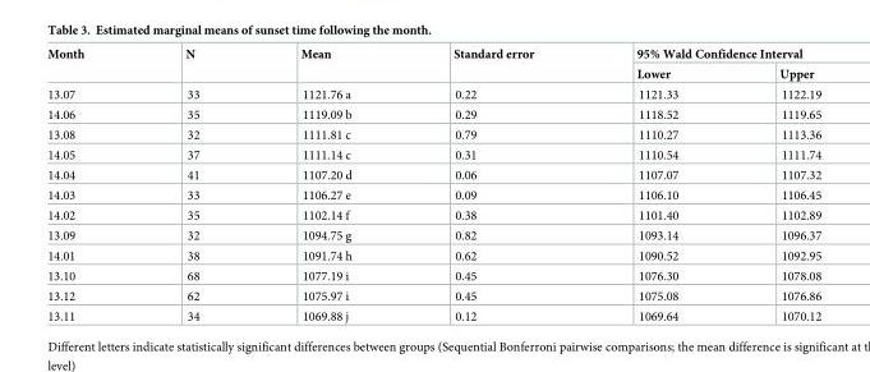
<table><thead><tr><td rowspan="2">Month</td><td rowspan="2">N</td><td rowspan="2">Mean</td><td rowspan="2">Standard error</td><td colspan="2">95% Wald Confidence Interval</td></tr><tr><td>Lower</td><td>Upper</td></tr></thead><tbody><tr><td>13.07</td><td>33</td><td>1121.76 a</td><td>0.22</td><td>1121.33</td><td>1122.19</td></tr><tr><td>14.06</td><td>35</td><td>1119.09 b</td><td>0.29</td><td>1118.52</td><td>1119.65</td></tr><tr><td>13.08</td><td>32</td><td>1111.81 c</td><td>0.79</td><td>1110.27</td><td>1113.36</td></tr><tr><td>14.05</td><td>37</td><td>1111.14 c</td><td>0.31</td><td>1110.54</td><td>1111.74</td></tr><tr><td>14.04</td><td>41</td><td>1107.20 d</td><td>0.06</td><td>1107.07</td><td>1107.32</td></tr><tr><td>14.03</td><td>33</td><td>1106.27 e</td><td>0.09</td><td>1106.10</td><td>1106.45</td></tr><tr><td>14.02</td><td>35</td><td>1102.14 f</td><td>0.38</td><td>1101.40</td><td>1102.89</td></tr><tr><td>13.09</td><td>32</td><td>1094.75 g</td><td>0.82</td><td>1093.14</td><td>1096.37</td></tr><tr><td>14.01</td><td>38</td><td>1091.74 h</td><td>0.62</td><td>1090.52</td><td>1092.95</td></tr><tr><td>13.10</td><td>68</td><td>1077.19 i</td><td>0.45</td><td>1076.30</td><td>1078.08</td></tr><tr><td>13.12</td><td>62</td><td>1075.97 i</td><td>0.45</td><td>1075.08</td><td>1076.86</td></tr><tr><td>13.11</td><td>34</td><td>1069.88 j</td><td>0.12</td><td>1069.64</td><td>1070.12</td></tr></tbody></table>